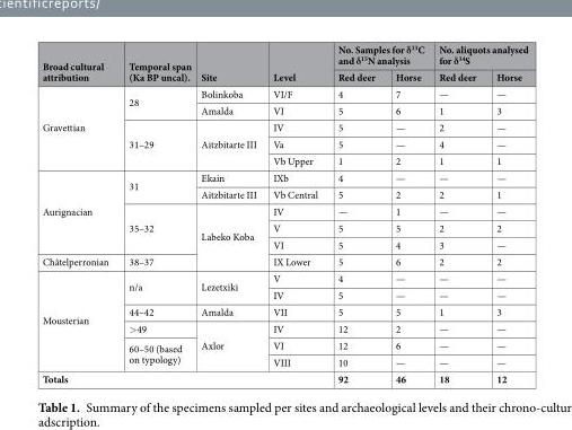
<table><thead><tr><td rowspan="2">Broad cultural attribution</td><td rowspan="2">Temporal span (Ka BP uncal).</td><td rowspan="2">Site</td><td rowspan="2">Level</td><td colspan="2">No. Samples for δ<sup>13</sup>C and δ<sup>15</sup>N analysis</td><td colspan="2">No. aliquots analysed for δ<sup>34</sup>S</td></tr><tr><td>Red deer</td><td>Horse</td><td>Red deer</td><td>Horse</td></tr></thead><tbody><tr><td rowspan="5">Gravettian</td><td rowspan="2">28</td><td>Bolinkoba</td><td>VI/F</td><td>4</td><td>7</td><td>—</td><td>—</td></tr><tr><td>Amalda</td><td>VI</td><td>5</td><td>6</td><td>1</td><td>3</td></tr><tr><td rowspan="3">31–29</td><td rowspan="3">Aitzbitarte III</td><td>IV</td><td>5</td><td>—</td><td>2</td><td>—</td></tr><tr><td>Va</td><td>5</td><td>—</td><td>4</td><td>—</td></tr><tr><td>Vb Upper</td><td>1</td><td>2</td><td>1</td><td>1</td></tr><tr><td rowspan="5">Aurignacian</td><td rowspan="2">31</td><td>Ekain</td><td>IXb</td><td>4</td><td>—</td><td>—</td><td>—</td></tr><tr><td>Aitzbitarte III</td><td>Vb Central</td><td>5</td><td>2</td><td>2</td><td>1</td></tr><tr><td rowspan="3">35–32</td><td rowspan="4">Labeko Koba</td><td>IV</td><td>—</td><td>1</td><td>—</td><td>—</td></tr><tr><td>V</td><td>5</td><td>5</td><td>2</td><td>2</td></tr><tr><td>VI</td><td>5</td><td>4</td><td>3</td><td>—</td></tr><tr><td>Châtelperronian</td><td>38–37</td><td>IX Lower</td><td>5</td><td>6</td><td>2</td><td>2</td></tr><tr><td rowspan="6">Mousterian</td><td rowspan="2">n/a</td><td rowspan="2">Lezetxiki</td><td>V</td><td>4</td><td>—</td><td>—</td><td>—</td></tr><tr><td>IV</td><td>5</td><td>—</td><td>—</td><td>—</td></tr><tr><td>44–42</td><td>Amalda</td><td>VII</td><td>5</td><td>5</td><td>1</td><td>3</td></tr><tr><td>&gt;49</td><td rowspan="3">Axlor</td><td>IV</td><td>12</td><td>2</td><td>—</td><td>—</td></tr><tr><td rowspan="2">60–50 (based on typology)</td><td>VI</td><td>12</td><td>6</td><td>—</td><td>—</td></tr><tr><td>VIII</td><td>10</td><td>—</td><td>—</td><td>—</td></tr><tr><td colspan="4">Totals</td><td>92</td><td>46</td><td>18</td><td>12</td></tr></tbody></table>